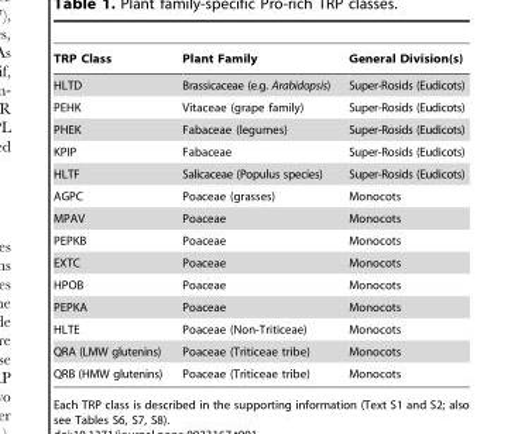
<table><thead><tr><td>TRP Class</td><td>Plant Family</td><td>General Division(s)</td></tr></thead><tbody><tr><td>HLTD</td><td>Brassicaceae (e.g. Arabidopsis)</td><td>Super-Rosids (Eudicots)</td></tr><tr><td>PEHK</td><td>Vitaceae (grape family)</td><td>Super-Rosids (Eudicots)</td></tr><tr><td>PHEK</td><td>Fabaceae (legumes)</td><td>Super-Rosids (Eudicots)</td></tr><tr><td>KPIP</td><td>Fabaceae</td><td>Super-Rosids (Eudicots)</td></tr><tr><td>HLTF</td><td>Salicaceae (Populus species)</td><td>Super-Rosids (Eudicots)</td></tr><tr><td>AGPC</td><td>Poaceae (grasses)</td><td>Monocots</td></tr><tr><td>MPAV</td><td>Poaceae</td><td>Monocots</td></tr><tr><td>PEPKB</td><td>Poaceae</td><td>Monocots</td></tr><tr><td>EXTC</td><td>Poaceae</td><td>Monocots</td></tr><tr><td>HPOB</td><td>Poaceae</td><td>Monocots</td></tr><tr><td>PEPKA</td><td>Poaceae</td><td>Monocots</td></tr><tr><td>HLTE</td><td>Poaceae (Non-Triticeae)</td><td>Monocots</td></tr><tr><td>QRA (LMW glutenins)</td><td>Poaceae (Triticeae tribe)</td><td>Monocots</td></tr><tr><td>QRB (HMW glutenins)</td><td>Poaceae (Triticeae tribe)</td><td>Monocots</td></tr></tbody></table>